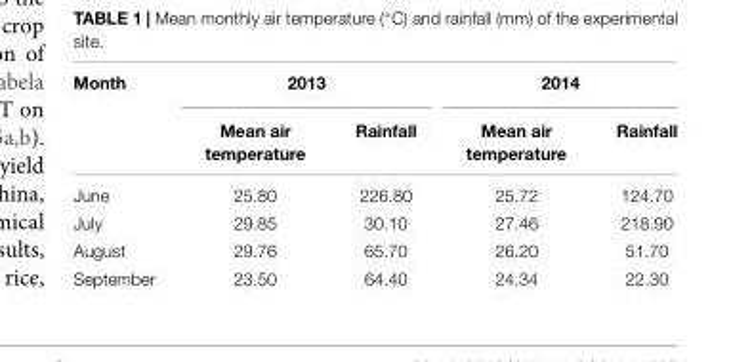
<table><thead><tr><td rowspan="2">Month</td><td colspan="2">2013</td><td colspan="2">2014</td></tr><tr><td>Mean air temperature</td><td>Rainfall</td><td>Mean air temperature</td><td>Rainfall</td></tr></thead><tbody><tr><td>June</td><td>25.80</td><td>226.80</td><td>25.72</td><td>124.70</td></tr><tr><td>July</td><td>29.85</td><td>30.10</td><td>27.46</td><td>218.90</td></tr><tr><td>August</td><td>29.76</td><td>65.70</td><td>26.20</td><td>51.70</td></tr><tr><td>September</td><td>23.50</td><td>64.40</td><td>24.34</td><td>22.30</td></tr></tbody></table>